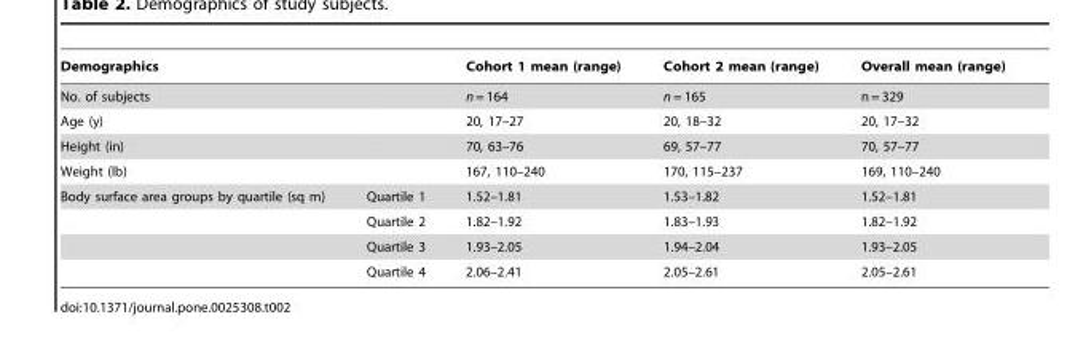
<table><thead><tr><td>Demographics</td><td></td><td>Cohort 1 mean (range)</td><td>Cohort 2 mean (range)</td><td>Overall mean (range)</td></tr></thead><tbody><tr><td>No. of subjects</td><td></td><td>n = 164</td><td>n = 165</td><td>n = 329</td></tr><tr><td>Age (y)</td><td></td><td>20, 17–27</td><td>20, 18–32</td><td>20, 17–32</td></tr><tr><td>Height (in)</td><td></td><td>70, 63–76</td><td>69, 57–77</td><td>70, 57–77</td></tr><tr><td>Weight (lb)</td><td></td><td>167, 110–240</td><td>170, 115–237</td><td>169, 110–240</td></tr><tr><td rowspan="4">Body surface area groups by quartile (sq m)</td><td>Quartile 1</td><td>1.52–1.81</td><td>1.53–1.82</td><td>1.52–1.81</td></tr><tr><td>Quartile 2</td><td>1.82–1.92</td><td>1.83–1.93</td><td>1.82–1.92</td></tr><tr><td>Quartile 3</td><td>1.93–2.05</td><td>1.94–2.04</td><td>1.93–2.05</td></tr><tr><td>Quartile 4</td><td>2.06–2.41</td><td>2.05–2.61</td><td>2.05–2.61</td></tr></tbody></table>